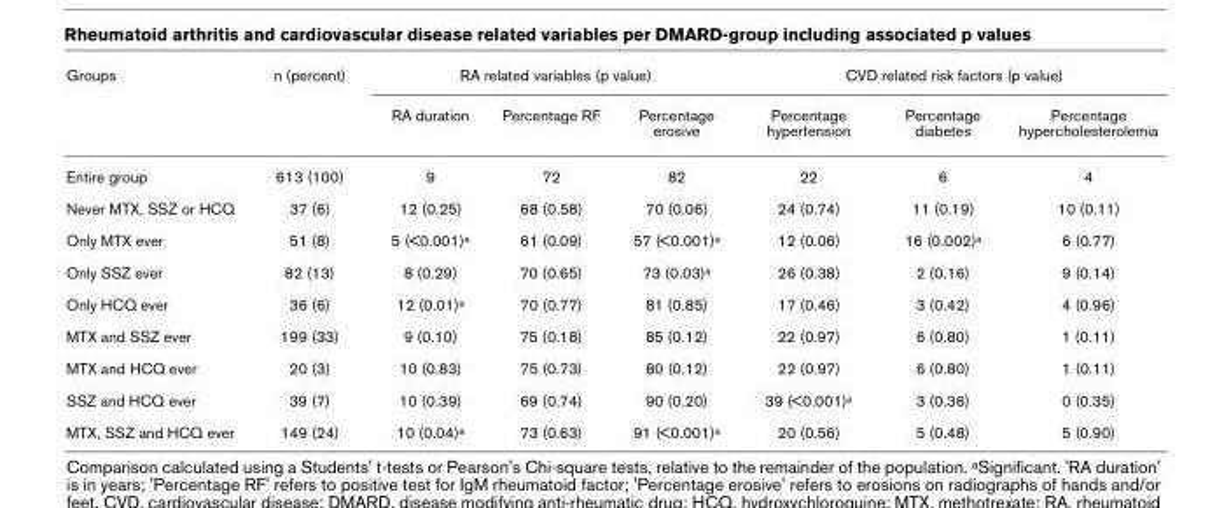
<table><thead><tr><td rowspan="2">Groups</td><td rowspan="2">n (percent)</td><td colspan="3">RA related variables (p value)</td><td colspan="3">CVD related risk factors (p value)</td></tr><tr><td>RA duration</td><td>Percentage RF</td><td>Percentage erosive</td><td>Percentage hypertension</td><td>Percentage diabetes</td><td>Percentage hypercholesterolemia</td></tr></thead><tbody><tr><td>Entire group</td><td>613 (100)</td><td>9</td><td>72</td><td>82</td><td>22</td><td>6</td><td>4</td></tr><tr><td>Never MTX, SSZ or HCQ</td><td>37 (6)</td><td>12 (0.25)</td><td>68 (0.58)</td><td>70 (0.06)</td><td>24 (0.74)</td><td>11 (0.19)</td><td>10 (0.11)</td></tr><tr><td>Only MTX ever</td><td>51 (8)</td><td>5 (&lt;0.001)a</td><td>61 (0.09)</td><td>57 (&lt;0.001)a</td><td>12 (0.06)</td><td>16 (0.002)a</td><td>6 (0.77)</td></tr><tr><td>Only SSZ ever</td><td>82 (13)</td><td>8 (0.29)</td><td>70 (0.65)</td><td>73 (0.03)a</td><td>26 (0.38)</td><td>2 (0.16)</td><td>9 (0.14)</td></tr><tr><td>Only HCQ ever</td><td>36 (6)</td><td>12 (0.01)a</td><td>70 (0.77)</td><td>81 (0.85)</td><td>17 (0.46)</td><td>3 (0.42)</td><td>4 (0.96)</td></tr><tr><td>MTX and SSZ ever</td><td>199 (33)</td><td>9 (0.10)</td><td>75 (0.18)</td><td>85 (0.12)</td><td>22 (0.97)</td><td>6 (0.80)</td><td>1 (0.11)</td></tr><tr><td>MTX and HCQ ever</td><td>20 (3)</td><td>10 (0.83)</td><td>75 (0.73)</td><td>80 (0.12)</td><td>22 (0.97)</td><td>6 (0.80)</td><td>1 (0.11)</td></tr><tr><td>SSZ and HCQ ever</td><td>39 (7)</td><td>10 (0.39)</td><td>69 (0.74)</td><td>90 (0.20)</td><td>39 (&lt;0.001)a</td><td>3 (0.36)</td><td>0 (0.35)</td></tr><tr><td>MTX, SSZ and HCQ ever</td><td>149 (24)</td><td>10 (0.04)a</td><td>73 (0.63)</td><td>91 (&lt;0.001)a</td><td>20 (0.56)</td><td>5 (0.48)</td><td>5 (0.90)</td></tr></tbody></table>